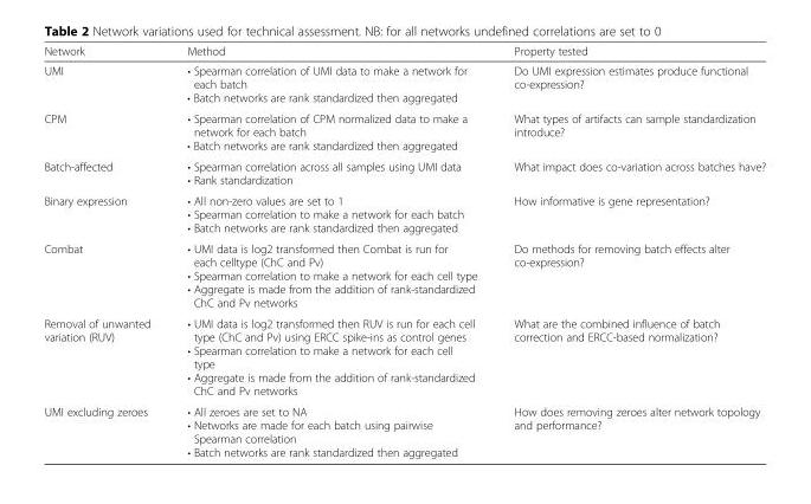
<table><thead><tr><td>Network</td><td>Method</td><td>Property tested</td></tr></thead><tbody><tr><td>UMI</td><td>• Spearman correlation of UMI data to make a network for each batch • Batch networks are rank standardized then aggregated</td><td>Do UMI expression estimates produce functional co-expression?</td></tr><tr><td>CPM</td><td>• Spearman correlation of CPM normalized data to make a network for each batch • Batch networks are rank standardized then aggregated</td><td>What types of artifacts can sample standardization introduce?</td></tr><tr><td>Batch-affected</td><td>• Spearman correlation across all samples using UMI data • Rank standardization</td><td>What impact does co-variation across batches have?</td></tr><tr><td>Binary expression</td><td>• All non-zero values are set to 1 • Spearman correlation to make a network for each batch • Batch networks are rank standardized then aggregated</td><td>How informative is gene representation?</td></tr><tr><td>Combat</td><td>• UMI data is log2 transformed then Combat is run for each celltype (ChC and Pv) • Spearman correlation to make a network for each cell type • Aggregate is made from the addition of rank-standardized ChC and Pv networks</td><td>Do methods for removing batch effects alter co-expression?</td></tr><tr><td>Removal of unwanted variation (RUV)</td><td>• UMI data is log2 transformed then RUV is run for each cell type (ChC and Pv) using ERCC spike-ins as control genes • Spearman correlation to make a network for each cell type • Aggregate is made from the addition of rank-standardized ChC and Pv networks</td><td>What are the combined influence of batch correction and ERCC-based normalization?</td></tr><tr><td>UMI excluding zeroes</td><td>• All zeroes are set to NA • Networks are made for each batch using pairwise Spearman correlation • Batch networks are rank standardized then aggregated</td><td>How does removing zeroes alter network topology and performance?</td></tr></tbody></table>